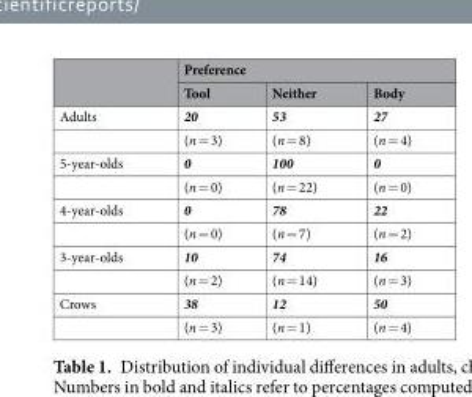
<table><thead><tr><td rowspan="2"></td><td colspan="3">Preference</td></tr><tr><td>Tool</td><td>Neither</td><td>Body</td></tr></thead><tbody><tr><td rowspan="2">Adults</td><td>20</td><td>53</td><td>27</td></tr><tr><td>(n = 3)</td><td>(n = 8)</td><td>(n = 4)</td></tr><tr><td rowspan="2">5-year-olds</td><td>0</td><td>100</td><td>0</td></tr><tr><td>(n = 0)</td><td>(n = 22)</td><td>(n = 0)</td></tr><tr><td rowspan="2">4-year-olds</td><td>0</td><td>78</td><td>22</td></tr><tr><td>(n = 0)</td><td>(n = 7)</td><td>(n = 2)</td></tr><tr><td rowspan="2">3-year-olds</td><td>10</td><td>74</td><td>16</td></tr><tr><td>(n = 2)</td><td>(n = 14)</td><td>(n = 3)</td></tr><tr><td rowspan="2">Crows</td><td>38</td><td>12</td><td>50</td></tr><tr><td>(n = 3)</td><td>(n = 1)</td><td>(n = 4)</td></tr></tbody></table>